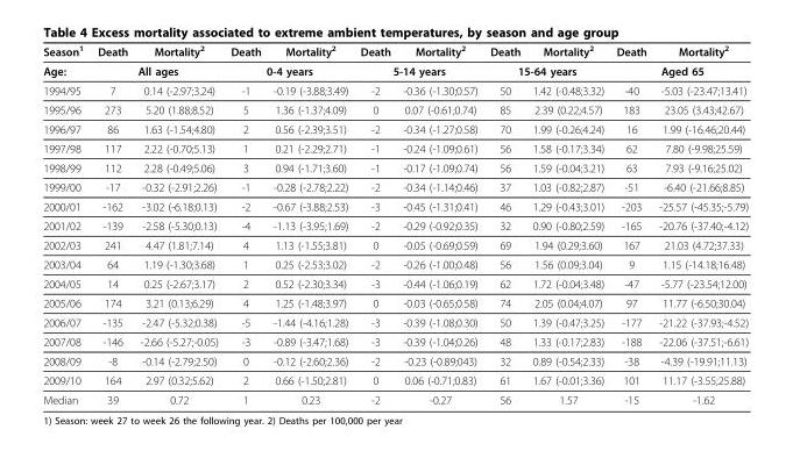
<table><thead><tr><td>Season1</td><td>Death</td><td>Mortality2</td><td>Death</td><td>Mortality2</td><td>Death</td><td>Mortality2</td><td>Death</td><td>Mortality2</td><td>Death</td><td>Mortality2</td></tr></thead><tbody><tr><td>Age:</td><td colspan="2">All ages</td><td colspan="2">0-4 years</td><td colspan="2">5-14 years</td><td colspan="2">15-64 years</td><td colspan="2">Aged 65</td></tr><tr><td>1994/95</td><td>7</td><td>0.14 (-2.97;3.24)</td><td>-1</td><td>-0.19 (-3.88;3.49)</td><td>-2</td><td>-0.36 (-1.30;0.57)</td><td>50</td><td>1.42 (-0.48;3.32)</td><td>-40</td><td>-5.03 (-23.47;13.41)</td></tr><tr><td>1995/96</td><td>273</td><td>5.20 (1.88;8.52)</td><td>5</td><td>1.36 (-1.37;4.09)</td><td>0</td><td>0.07 (-0.61;0.74)</td><td>85</td><td>2.39 (0.22;4.57)</td><td>183</td><td>23.05 (3.43;42.67)</td></tr><tr><td>1996/97</td><td>86</td><td>1.63 (-1.54;4.80)</td><td>2</td><td>0.56 (-2.39;3.51)</td><td>-2</td><td>-0.34 (-1.27;0.58)</td><td>70</td><td>1.99 (-0.26;4.24)</td><td>16</td><td>1.99 (-16.46;20.44)</td></tr><tr><td>1997/98</td><td>117</td><td>2.22 (-0.70;5.13)</td><td>1</td><td>0.21 (-2.29;2.71)</td><td>-1</td><td>-0.24 (-1.09;0.61)</td><td>56</td><td>1.58 (-0.17;3.34)</td><td>62</td><td>7.80 (-9.98;25.59)</td></tr><tr><td>1998/99</td><td>112</td><td>2.28 (-0.49;5.06)</td><td>3</td><td>0.94 (-1.71;3.60)</td><td>-1</td><td>-0.17 (-1.09;0.74)</td><td>56</td><td>1.59 (-0.04;3.21)</td><td>63</td><td>7.93 (-9.16;25.02)</td></tr><tr><td>1999/00</td><td>-17</td><td>-0.32 (-2.91;2.26)</td><td>-1</td><td>-0.28 (-2.78;2.22)</td><td>-2</td><td>-0.34 (-1.14;0.46)</td><td>37</td><td>1.03 (-0.82;2.87)</td><td>-51</td><td>-6.40 (-21.66;8.85)</td></tr><tr><td>2000/01</td><td>-162</td><td>-3.02 (-6.18;0.13)</td><td>-2</td><td>-0.67 (-3.88;2.53)</td><td>-3</td><td>-0.45 (-1.31;0.41)</td><td>46</td><td>1.29 (-0.43;3.01)</td><td>-203</td><td>-25.57 (-45.35;-5.79)</td></tr><tr><td>2001/02</td><td>-139</td><td>-2.58 (-5.30;0.13)</td><td>-4</td><td>-1.13 (-3.95;1.69)</td><td>-2</td><td>-0.29 (-0.92;0.35)</td><td>32</td><td>0.90 (-0.80;2.59)</td><td>-165</td><td>-20.76 (-37.40;-4.12)</td></tr><tr><td>2002/03</td><td>241</td><td>4.47 (1.81;7.14)</td><td>4</td><td>1.13 (-1.55;3.81)</td><td>0</td><td>-0.05 (-0.69;0.59)</td><td>69</td><td>1.94 (0.29;3.60)</td><td>167</td><td>21.03 (4.72;37.33)</td></tr><tr><td>2003/04</td><td>64</td><td>1.19 (-1.30;3.68)</td><td>1</td><td>0.25 (-2.53;3.02)</td><td>-2</td><td>-0.26 (-1.00;0.48)</td><td>56</td><td>1.56 (0.09;3.04)</td><td>9</td><td>1.15 (-14.18;16.48)</td></tr><tr><td>2004/05</td><td>14</td><td>0.25 (-2.67;3.17)</td><td>2</td><td>0.52 (-2.30;3.34)</td><td>-3</td><td>-0.44 (-1.06;0.19)</td><td>62</td><td>1.72 (-0.04;3.48)</td><td>-47</td><td>-5.77 (-23.54;12.00)</td></tr><tr><td>2005/06</td><td>174</td><td>3.21 (0.13;6.29)</td><td>4</td><td>1.25 (-1.48;3.97)</td><td>0</td><td>-0.03 (-0.65;0.58)</td><td>74</td><td>2.05 (0.04;4.07)</td><td>97</td><td>11.77 (-6.50;30.04)</td></tr><tr><td>2006/07</td><td>-135</td><td>-2.47 (-5.32;0.38)</td><td>-5</td><td>-1.44 (-4.16;1.28)</td><td>-3</td><td>-0.39 (-1.08;0.30)</td><td>50</td><td>1.39 (-0.47;3.25)</td><td>-177</td><td>-21.22 (-37.93;-4.52)</td></tr><tr><td>2007/08</td><td>-146</td><td>-2.66 (-5.27;-0.05)</td><td>-3</td><td>-0.89 (-3.47;1.68)</td><td>-3</td><td>-0.39 (-1.04;0.26)</td><td>48</td><td>1.33 (-0.17;2.83)</td><td>-188</td><td>-22.06 (-37.51;-6.61)</td></tr><tr><td>2008/09</td><td>-8</td><td>-0.14 (-2.79;2.50)</td><td>0</td><td>-0.12 (-2.60;2.36)</td><td>-2</td><td>-0.23 (-0.89;043)</td><td>32</td><td>0.89 (-0.54;2.33)</td><td>-38</td><td>-4.39 (-19.91;11.13)</td></tr><tr><td>2009/10</td><td>164</td><td>2.97 (0.32;5.62)</td><td>2</td><td>0.66 (-1.50;2.81)</td><td>0</td><td>0.06 (-0.71;0.83)</td><td>61</td><td>1.67 (-0.01;3.36)</td><td>101</td><td>11.17 (-3.55;25.88)</td></tr><tr><td>Median</td><td>39</td><td>0.72</td><td>1</td><td>0.23</td><td>-2</td><td>-0.27</td><td>56</td><td>1.57</td><td>-15</td><td>-1.62</td></tr></tbody></table>